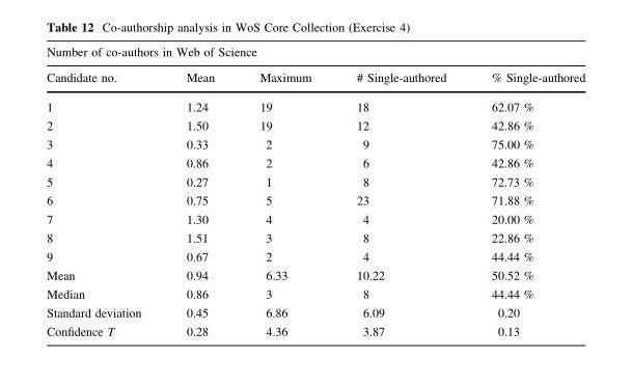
<table><thead><tr><td colspan="5">Number of co-authors in Web of Science</td></tr><tr><td>Candidate no.</td><td>Mean</td><td>Maximum</td><td># Single-authored</td><td>% Single-authored</td></tr></thead><tbody><tr><td>1</td><td>1.24</td><td>19</td><td>18</td><td>62.07 %</td></tr><tr><td>2</td><td>1.50</td><td>19</td><td>12</td><td>42.86 %</td></tr><tr><td>3</td><td>0.33</td><td>2</td><td>9</td><td>75.00 %</td></tr><tr><td>4</td><td>0.86</td><td>2</td><td>6</td><td>42.86 %</td></tr><tr><td>5</td><td>0.27</td><td>1</td><td>8</td><td>72.73 %</td></tr><tr><td>6</td><td>0.75</td><td>5</td><td>23</td><td>71.88 %</td></tr><tr><td>7</td><td>1.30</td><td>4</td><td>4</td><td>20.00 %</td></tr><tr><td>8</td><td>1.51</td><td>3</td><td>8</td><td>22.86 %</td></tr><tr><td>9</td><td>0.67</td><td>2</td><td>4</td><td>44.44 %</td></tr><tr><td>Mean</td><td>0.94</td><td>6.33</td><td>10.22</td><td>50.52 %</td></tr><tr><td>Median</td><td>0.86</td><td>3</td><td>8</td><td>44.44 %</td></tr><tr><td>Standard deviation</td><td>0.45</td><td>6.86</td><td>6.09</td><td>0.20</td></tr><tr><td>Confidence T</td><td>0.28</td><td>4.36</td><td>3.87</td><td>0.13</td></tr></tbody></table>